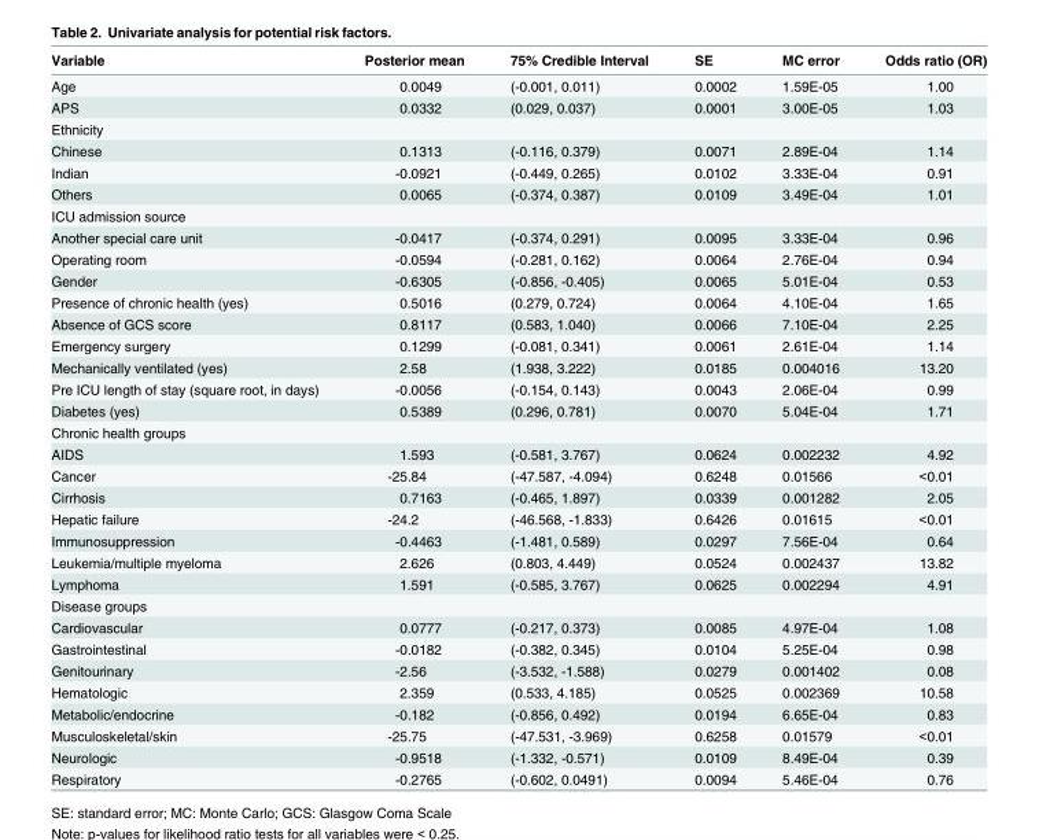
<table><thead><tr><td>Variable</td><td>Posterior mean</td><td>75% Credible Interval</td><td>SE</td><td>MC error</td><td>Odds ratio (OR)</td></tr></thead><tbody><tr><td>Age</td><td>0.0049</td><td>(-0.001, 0.011)</td><td>0.0002</td><td>1.59E-05</td><td>1.00</td></tr><tr><td>APS</td><td>0.0332</td><td>(0.029, 0.037)</td><td>0.0001</td><td>3.00E-05</td><td>1.03</td></tr><tr><td colspan="6">Ethnicity</td></tr><tr><td>Chinese</td><td>0.1313</td><td>(-0.116, 0.379)</td><td>0.0071</td><td>2.89E-04</td><td>1.14</td></tr><tr><td>Indian</td><td>-0.0921</td><td>(-0.449, 0.265)</td><td>0.0102</td><td>3.33E-04</td><td>0.91</td></tr><tr><td>Others</td><td>0.0065</td><td>(-0.374, 0.387)</td><td>0.0109</td><td>3.49E-04</td><td>1.01</td></tr><tr><td colspan="6">ICU admission source</td></tr><tr><td>Another special care unit</td><td>-0.0417</td><td>(-0.374, 0.291)</td><td>0.0095</td><td>3.33E-04</td><td>0.96</td></tr><tr><td>Operating room</td><td>-0.0594</td><td>(-0.281, 0.162)</td><td>0.0064</td><td>2.76E-04</td><td>0.94</td></tr><tr><td>Gender</td><td>-0.6305</td><td>(-0.856, -0.405)</td><td>0.0065</td><td>5.01E-04</td><td>0.53</td></tr><tr><td>Presence of chronic health (yes)</td><td>0.5016</td><td>(0.279, 0.724)</td><td>0.0064</td><td>4.10E-04</td><td>1.65</td></tr><tr><td>Absence of GCS score</td><td>0.8117</td><td>(0.583, 1.040)</td><td>0.0066</td><td>7.10E-04</td><td>2.25</td></tr><tr><td>Emergency surgery</td><td>0.1299</td><td>(-0.081, 0.341)</td><td>0.0061</td><td>2.61E-04</td><td>1.14</td></tr><tr><td>Mechanically ventilated (yes)</td><td>2.58</td><td>(1.938, 3.222)</td><td>0.0185</td><td>0.004016</td><td>13.20</td></tr><tr><td>Pre ICU length of stay (square root, in days)</td><td>-0.0056</td><td>(-0.154, 0.143)</td><td>0.0043</td><td>2.06E-04</td><td>0.99</td></tr><tr><td>Diabetes (yes)</td><td>0.5389</td><td>(0.296, 0.781)</td><td>0.0070</td><td>5.04E-04</td><td>1.71</td></tr><tr><td colspan="6">Chronic health groups</td></tr><tr><td>AIDS</td><td>1.593</td><td>(-0.581, 3.767)</td><td>0.0624</td><td>0.002232</td><td>4.92</td></tr><tr><td>Cancer</td><td>-25.84</td><td>(-47.587, -4.094)</td><td>0.6248</td><td>0.01566</td><td>&lt;0.01</td></tr><tr><td>Cirrhosis</td><td>0.7163</td><td>(-0.465, 1.897)</td><td>0.0339</td><td>0.001282</td><td>2.05</td></tr><tr><td>Hepatic failure</td><td>-24.2</td><td>(-46.568, -1.833)</td><td>0.6426</td><td>0.01615</td><td>&lt;0.01</td></tr><tr><td>Immunosuppression</td><td>-0.4463</td><td>(-1.481, 0.589)</td><td>0.0297</td><td>7.56E-04</td><td>0.64</td></tr><tr><td>Leukemia/multiple myeloma</td><td>2.626</td><td>(0.803, 4.449)</td><td>0.0524</td><td>0.002437</td><td>13.82</td></tr><tr><td>Lymphoma</td><td>1.591</td><td>(-0.585, 3.767)</td><td>0.0625</td><td>0.002294</td><td>4.91</td></tr><tr><td colspan="6">Disease groups</td></tr><tr><td>Cardiovascular</td><td>0.0777</td><td>(-0.217, 0.373)</td><td>0.0085</td><td>4.97E-04</td><td>1.08</td></tr><tr><td>Gastrointestinal</td><td>-0.0182</td><td>(-0.382, 0.345)</td><td>0.0104</td><td>5.25E-04</td><td>0.98</td></tr><tr><td>Genitourinary</td><td>-2.56</td><td>(-3.532, -1.588)</td><td>0.0279</td><td>0.001402</td><td>0.08</td></tr><tr><td>Hematologic</td><td>2.359</td><td>(0.533, 4.185)</td><td>0.0525</td><td>0.002369</td><td>10.58</td></tr><tr><td>Metabolic/endocrine</td><td>-0.182</td><td>(-0.856, 0.492)</td><td>0.0194</td><td>6.65E-04</td><td>0.83</td></tr><tr><td>Musculoskeletal/skin</td><td>-25.75</td><td>(-47.531, -3.969)</td><td>0.6258</td><td>0.01579</td><td>&lt;0.01</td></tr><tr><td>Neurologic</td><td>-0.9518</td><td>(-1.332, -0.571)</td><td>0.0109</td><td>8.49E-04</td><td>0.39</td></tr><tr><td>Respiratory</td><td>-0.2765</td><td>(-0.602, 0.0491)</td><td>0.0094</td><td>5.46E-04</td><td>0.76</td></tr></tbody></table>